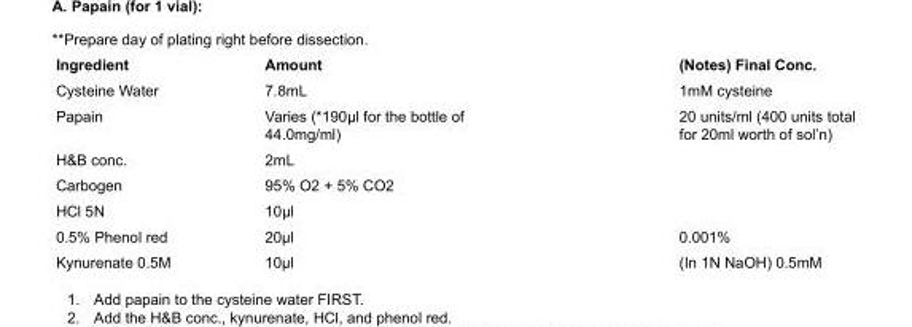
<table><tbody><tr><td>Ingredient</td><td>Amount</td><td>(Notes) Final Conc.</td></tr><tr><td>Cysteine Water</td><td>7.8mL</td><td>1mM cysteine</td></tr><tr><td>Papain</td><td>Varies (*190μl for the bottle of 44.0mg/ml)</td><td>20 units/ml (400 units total for 20ml worth of sol’n)</td></tr><tr><td>H&amp;B conc.</td><td>2mL</td><td></td></tr><tr><td>Carbogen</td><td>95% O2 + 5% CO2</td><td></td></tr><tr><td>HCl 5N</td><td>10μl</td><td></td></tr><tr><td>0.5% Phenol red</td><td>20μl</td><td>0.001%</td></tr><tr><td>Kynurenate 0.5M</td><td>10μl</td><td>(In 1N NaOH) 0.5mM</td></tr></tbody></table>